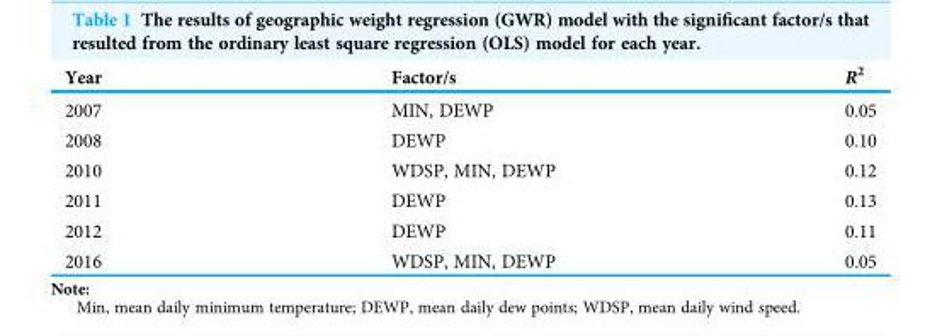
<table><thead><tr><td>Year</td><td>Factor/s</td><td>R<sup>2</sup></td></tr></thead><tbody><tr><td>2007</td><td>MIN, DEWP</td><td>0.05</td></tr><tr><td>2008</td><td>DEWP</td><td>0.10</td></tr><tr><td>2010</td><td>WDSP, MIN, DEWP</td><td>0.12</td></tr><tr><td>2011</td><td>DEWP</td><td>0.13</td></tr><tr><td>2012</td><td>DEWP</td><td>0.11</td></tr><tr><td>2016</td><td>WDSP, MIN, DEWP</td><td>0.05</td></tr></tbody></table>